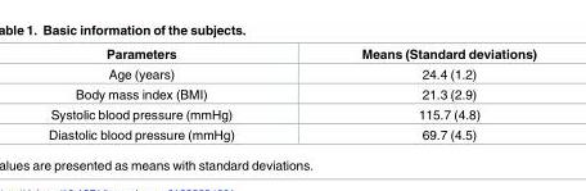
<table><thead><tr><td>Parameters</td><td>Means (Standard deviations)</td></tr></thead><tbody><tr><td>Age (years)</td><td>24.4 (1.2)</td></tr><tr><td>Body mass index (BMI)</td><td>21.3 (2.9)</td></tr><tr><td>Systolic blood pressure (mmHg)</td><td>115.7 (4.8)</td></tr><tr><td>Diastolic blood pressure (mmHg)</td><td>69.7 (4.5)</td></tr></tbody></table>